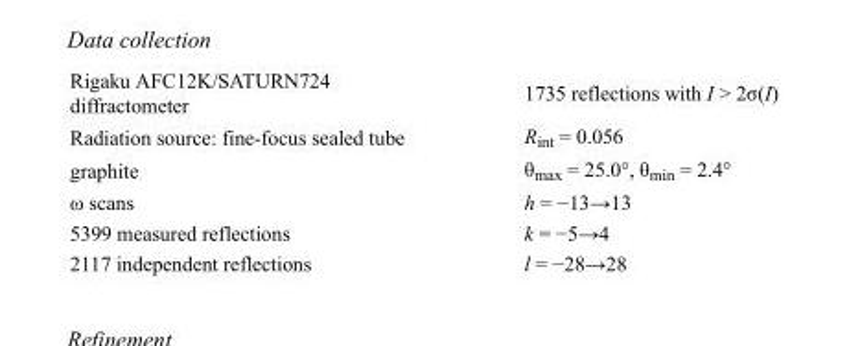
<table><tbody><tr><td>Rigaku AFC12K/SATURN724 diffractometer</td><td>1735 reflections with I &gt; 2σ(I)</td></tr><tr><td>Radiation source: fine-focus sealed tube</td><td>R<sub>int</sub> = 0.056</td></tr><tr><td>graphite</td><td>θ<sub>max</sub> = 25.0°, θ<sub>min</sub> = 2.4°</td></tr><tr><td>ω scans</td><td>h = −13→13</td></tr><tr><td>5399 measured reflections</td><td>k = −5→4</td></tr><tr><td>2117 independent reflections</td><td>l = −28→28</td></tr></tbody></table>